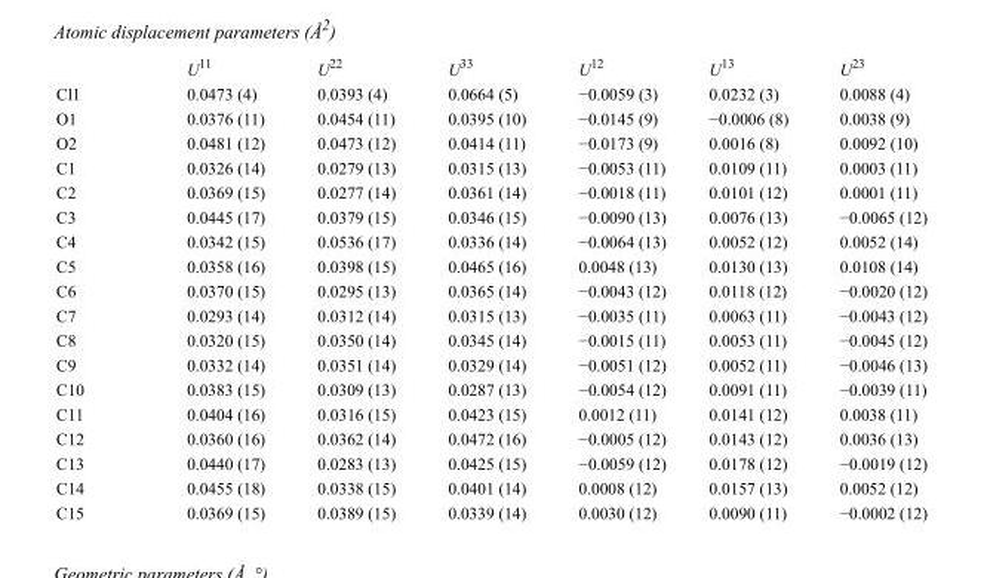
<table><thead><tr><td></td><td>U<sup>11</sup></td><td>U<sup>22</sup></td><td>U<sup>33</sup></td><td>U<sup>12</sup></td><td>U<sup>13</sup></td><td>U<sup>23</sup></td></tr></thead><tbody><tr><td>Cl1</td><td>0.0473 (4)</td><td>0.0393 (4)</td><td>0.0664 (5)</td><td>−0.0059 (3)</td><td>0.0232 (3)</td><td>0.0088 (4)</td></tr><tr><td>O1</td><td>0.0376 (11)</td><td>0.0454 (11)</td><td>0.0395 (10)</td><td>−0.0145 (9)</td><td>−0.0006 (8)</td><td>0.0038 (9)</td></tr><tr><td>O2</td><td>0.0481 (12)</td><td>0.0473 (12)</td><td>0.0414 (11)</td><td>−0.0173 (9)</td><td>0.0016 (8)</td><td>0.0092 (10)</td></tr><tr><td>C1</td><td>0.0326 (14)</td><td>0.0279 (13)</td><td>0.0315 (13)</td><td>−0.0053 (11)</td><td>0.0109 (11)</td><td>0.0003 (11)</td></tr><tr><td>C2</td><td>0.0369 (15)</td><td>0.0277 (14)</td><td>0.0361 (14)</td><td>−0.0018 (11)</td><td>0.0101 (12)</td><td>0.0001 (11)</td></tr><tr><td>C3</td><td>0.0445 (17)</td><td>0.0379 (15)</td><td>0.0346 (15)</td><td>−0.0090 (13)</td><td>0.0076 (13)</td><td>−0.0065 (12)</td></tr><tr><td>C4</td><td>0.0342 (15)</td><td>0.0536 (17)</td><td>0.0336 (14)</td><td>−0.0064 (13)</td><td>0.0052 (12)</td><td>0.0052 (14)</td></tr><tr><td>C5</td><td>0.0358 (16)</td><td>0.0398 (15)</td><td>0.0465 (16)</td><td>0.0048 (13)</td><td>0.0130 (13)</td><td>0.0108 (14)</td></tr><tr><td>C6</td><td>0.0370 (15)</td><td>0.0295 (13)</td><td>0.0365 (14)</td><td>−0.0043 (12)</td><td>0.0118 (12)</td><td>−0.0020 (12)</td></tr><tr><td>C7</td><td>0.0293 (14)</td><td>0.0312 (14)</td><td>0.0315 (13)</td><td>−0.0035 (11)</td><td>0.0063 (11)</td><td>−0.0043 (12)</td></tr><tr><td>C8</td><td>0.0320 (15)</td><td>0.0350 (14)</td><td>0.0345 (14)</td><td>−0.0015 (11)</td><td>0.0053 (11)</td><td>−0.0045 (12)</td></tr><tr><td>C9</td><td>0.0332 (14)</td><td>0.0351 (14)</td><td>0.0329 (14)</td><td>−0.0051 (12)</td><td>0.0052 (11)</td><td>−0.0046 (13)</td></tr><tr><td>C10</td><td>0.0383 (15)</td><td>0.0309 (13)</td><td>0.0287 (13)</td><td>−0.0054 (12)</td><td>0.0091 (11)</td><td>−0.0039 (11)</td></tr><tr><td>C11</td><td>0.0404 (16)</td><td>0.0316 (15)</td><td>0.0423 (15)</td><td>0.0012 (11)</td><td>0.0141 (12)</td><td>0.0038 (11)</td></tr><tr><td>C12</td><td>0.0360 (16)</td><td>0.0362 (14)</td><td>0.0472 (16)</td><td>−0.0005 (12)</td><td>0.0143 (12)</td><td>0.0036 (13)</td></tr><tr><td>C13</td><td>0.0440 (17)</td><td>0.0283 (13)</td><td>0.0425 (15)</td><td>−0.0059 (12)</td><td>0.0178 (12)</td><td>−0.0019 (12)</td></tr><tr><td>C14</td><td>0.0455 (18)</td><td>0.0338 (15)</td><td>0.0401 (14)</td><td>0.0008 (12)</td><td>0.0157 (13)</td><td>0.0052 (12)</td></tr><tr><td>C15</td><td>0.0369 (15)</td><td>0.0389 (15)</td><td>0.0339 (14)</td><td>0.0030 (12)</td><td>0.0090 (11)</td><td>−0.0002 (12)</td></tr></tbody></table>